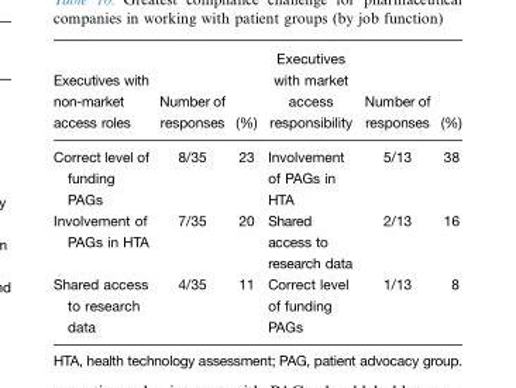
<table><thead><tr><td>Executives with non-market access roles</td><td>Number of responses</td><td>(%)</td><td>Executives with market access responsibility</td><td>Number of responses</td><td>(%)</td></tr></thead><tbody><tr><td>Correct level of funding PAGs</td><td>8/35</td><td>23</td><td>Involvement of PAGs in HTA</td><td>5/13</td><td>38</td></tr><tr><td>Involvement of PAGs in HTA</td><td>7/35</td><td>20</td><td>Shared access to research data</td><td>2/13</td><td>16</td></tr><tr><td>Shared access to research data</td><td>4/35</td><td>11</td><td>Correct level of funding PAGs</td><td>1/13</td><td>8</td></tr></tbody></table>